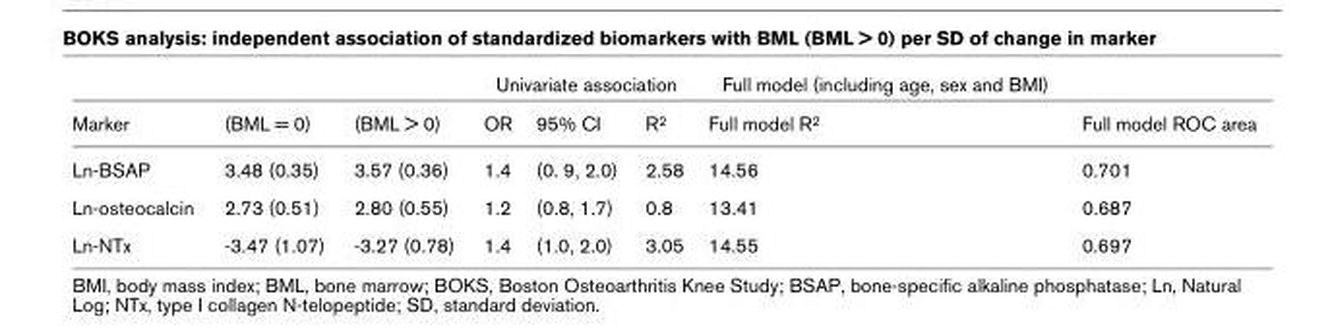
<table><thead><tr><td rowspan="2">Marker</td><td rowspan="2">(BML = 0)</td><td rowspan="2">(BML &gt; 0)</td><td colspan="3">Univariate association</td><td rowspan="2">Full model (including age, sex and BMI) Full model R<sup>2</sup></td><td rowspan="2">Full model ROC area</td></tr><tr><td>OR</td><td>95% CI</td><td>R<sup>2</sup></td></tr></thead><tbody><tr><td>Ln-BSAP</td><td>3.48 (0.35)</td><td>3.57 (0.36)</td><td>1.4</td><td>(0. 9, 2.0)</td><td>2.58</td><td>14.56</td><td>0.701</td></tr><tr><td>Ln-osteocalcin</td><td>2.73 (0.51)</td><td>2.80 (0.55)</td><td>1.2</td><td>(0.8, 1.7)</td><td>0.8</td><td>13.41</td><td>0.687</td></tr><tr><td>Ln-NTx</td><td>-3.47 (1.07)</td><td>-3.27 (0.78)</td><td>1.4</td><td>(1.0, 2.0)</td><td>3.05</td><td>14.55</td><td>0.697</td></tr></tbody></table>